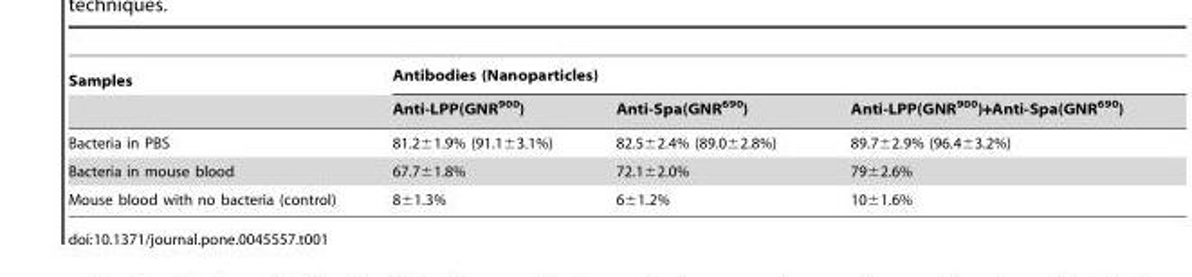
<table><thead><tr><td rowspan="2">Samples</td><td colspan="3">Antibodies (Nanoparticles)</td></tr><tr><td>Anti-LPP(GNR<sup>900</sup>)</td><td>Anti-Spa(GNR<sup>690</sup>)</td><td>Anti-LPP(GNR<sup>900</sup>)+Anti-Spa(GNR<sup>690</sup>)</td></tr></thead><tbody><tr><td>Bacteria in PBS</td><td>81.2±1.9% (91.1±3.1%)</td><td>82.5±2.4% (89.0±2.8%)</td><td>89.7±2.9% (96.4±3.2%)</td></tr><tr><td>Bacteria in mouse blood</td><td>67.7±1.8%</td><td>72.1±2.0%</td><td>79±2.6%</td></tr><tr><td>Mouse blood with no bacteria (control)</td><td>8±1.3%</td><td>6±1.2%</td><td>10±1.6%</td></tr></tbody></table>